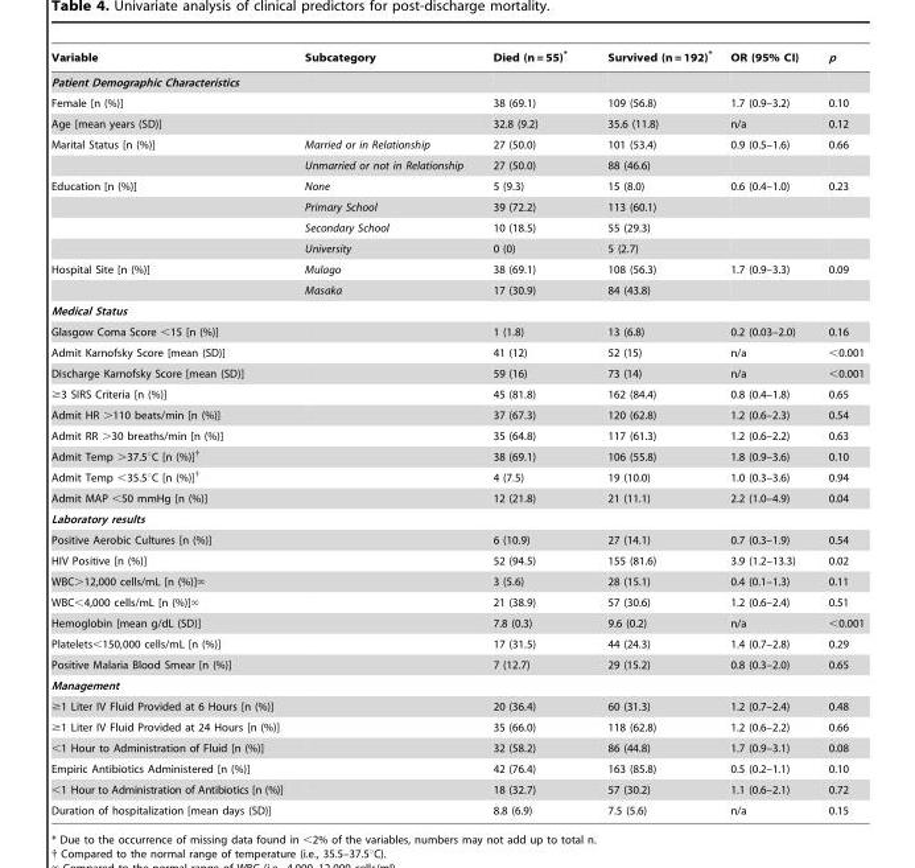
<table><thead><tr><td>Variable</td><td>Subcategory</td><td>Died (n = 55)*</td><td>Survived (n = 192)*</td><td>OR (95% CI)</td><td>p</td></tr></thead><tbody><tr><td colspan="6">Patient Demographic Characteristics</td></tr><tr><td>Female [n (%)]</td><td></td><td>38 (69.1)</td><td>109 (56.8)</td><td>1.7 (0.9–3.2)</td><td>0.10</td></tr><tr><td>Age [mean years (SD)]</td><td></td><td>32.8 (9.2)</td><td>35.6 (11.8)</td><td>n/a</td><td>0.12</td></tr><tr><td rowspan="2">Marital Status [n (%)]</td><td>Married or in Relationship</td><td>27 (50.0)</td><td>101 (53.4)</td><td>0.9 (0.5–1.6)</td><td>0.66</td></tr><tr><td>Unmarried or not in Relationship</td><td>27 (50.0)</td><td>88 (46.6)</td><td></td><td></td></tr><tr><td rowspan="4">Education [n (%)]</td><td>None</td><td>5 (9.3)</td><td>15 (8.0)</td><td>0.6 (0.4–1.0)</td><td>0.23</td></tr><tr><td>Primary School</td><td>39 (72.2)</td><td>113 (60.1)</td><td></td><td></td></tr><tr><td>Secondary School</td><td>10 (18.5)</td><td>55 (29.3)</td><td></td><td></td></tr><tr><td>University</td><td>0 (0)</td><td>5 (2.7)</td><td></td><td></td></tr><tr><td rowspan="2">Hospital Site [n (%)]</td><td>Mulago</td><td>38 (69.1)</td><td>108 (56.3)</td><td>1.7 (0.9–3.3)</td><td>0.09</td></tr><tr><td>Masaka</td><td>17 (30.9)</td><td>84 (43.8)</td><td></td><td></td></tr><tr><td colspan="6">Medical Status</td></tr><tr><td>Glasgow Coma Score &lt;15 [n (%)]</td><td></td><td>1 (1.8)</td><td>13 (6.8)</td><td>0.2 (0.03–2.0)</td><td>0.16</td></tr><tr><td>Admit Karnofsky Score [mean (SD)]</td><td></td><td>41 (12)</td><td>52 (15)</td><td>n/a</td><td>&lt;0.001</td></tr><tr><td>Discharge Karnofsky Score [mean (SD)]</td><td></td><td>59 (16)</td><td>73 (14)</td><td>n/a</td><td>&lt;0.001</td></tr><tr><td>≥3 SIRS Criteria [n (%)]</td><td></td><td>45 (81.8)</td><td>162 (84.4)</td><td>0.8 (0.4–1.8)</td><td>0.65</td></tr><tr><td>Admit HR &gt;110 beats/min [n (%)]</td><td></td><td>37 (67.3)</td><td>120 (62.8)</td><td>1.2 (0.6–2.3)</td><td>0.54</td></tr><tr><td>Admit RR &gt;30 breaths/min [n (%)]</td><td></td><td>35 (64.8)</td><td>117 (61.3)</td><td>1.2 (0.6–2.2)</td><td>0.63</td></tr><tr><td>Admit Temp &gt;37.5°C [n (%)]†</td><td></td><td>38 (69.1)</td><td>106 (55.8)</td><td>1.8 (0.9–3.6)</td><td>0.10</td></tr><tr><td>Admit Temp &lt;35.5°C [n (%)]†</td><td></td><td>4 (7.5)</td><td>19 (10.0)</td><td>1.0 (0.3–3.6)</td><td>0.94</td></tr><tr><td>Admit MAP &lt;50 mmHg [n (%)]</td><td></td><td>12 (21.8)</td><td>21 (11.1)</td><td>2.2 (1.0–4.9)</td><td>0.04</td></tr><tr><td colspan="6">Laboratory results</td></tr><tr><td>Positive Aerobic Cultures [n (%)]</td><td></td><td>6 (10.9)</td><td>27 (14.1)</td><td>0.7 (0.3–1.9)</td><td>0.54</td></tr><tr><td>HIV Positive [n (%)]</td><td></td><td>52 (94.5)</td><td>155 (81.6)</td><td>3.9 (1.2–13.3)</td><td>0.02</td></tr><tr><td>WBC.12,000 cells/mL [n (%)]‘</td><td></td><td>3 (5.6)</td><td>28 (15.1)</td><td>0.4 (0.1–1.3)</td><td>0.11</td></tr><tr><td>WBC,4,000 cells/mL [n (%)]‘</td><td></td><td>21 (38.9)</td><td>57 (30.6)</td><td>1.2 (0.6–2.4)</td><td>0.51</td></tr><tr><td>Hemoglobin [mean g/dL (SD)]</td><td></td><td>7.8 (0.3)</td><td>9.6 (0.2)</td><td>n/a</td><td>&lt;0.001</td></tr><tr><td>Platelets&lt;150,000 cells/mL [n (%)]</td><td></td><td>17 (31.5)</td><td>44 (24.3)</td><td>1.4 (0.7–2.8)</td><td>0.29</td></tr><tr><td>Positive Malaria Blood Smear [n (%)]</td><td></td><td>7 (12.7)</td><td>29 (15.2)</td><td>0.8 (0.3–2.0)</td><td>0.65</td></tr><tr><td colspan="6">Management</td></tr><tr><td>≥1 Liter IV Fluid Provided at 6 Hours [n (%)]</td><td></td><td>20 (36.4)</td><td>60 (31.3)</td><td>1.2 (0.7–2.4)</td><td>0.48</td></tr><tr><td>≥1 Liter IV Fluid Provided at 24 Hours [n (%)]</td><td></td><td>35 (66.0)</td><td>118 (62.8)</td><td>1.2 (0.6–2.2)</td><td>0.66</td></tr><tr><td>&lt;1 Hour to Administration of Fluid [n (%)]</td><td></td><td>32 (58.2)</td><td>86 (44.8)</td><td>1.7 (0.9–3.1)</td><td>0.08</td></tr><tr><td>Empiric Antibiotics Administered [n (%)]</td><td></td><td>42 (76.4)</td><td>163 (85.8)</td><td>0.5 (0.2–1.1)</td><td>0.10</td></tr><tr><td>&lt;1 Hour to Administration of Antibiotics [n (%)]</td><td></td><td>18 (32.7)</td><td>57 (30.2)</td><td>1.1 (0.6–2.1)</td><td>0.72</td></tr><tr><td>Duration of hospitalization [mean days (SD)]</td><td></td><td>8.8 (6.9)</td><td>7.5 (5.6)</td><td>n/a</td><td>0.15</td></tr></tbody></table>